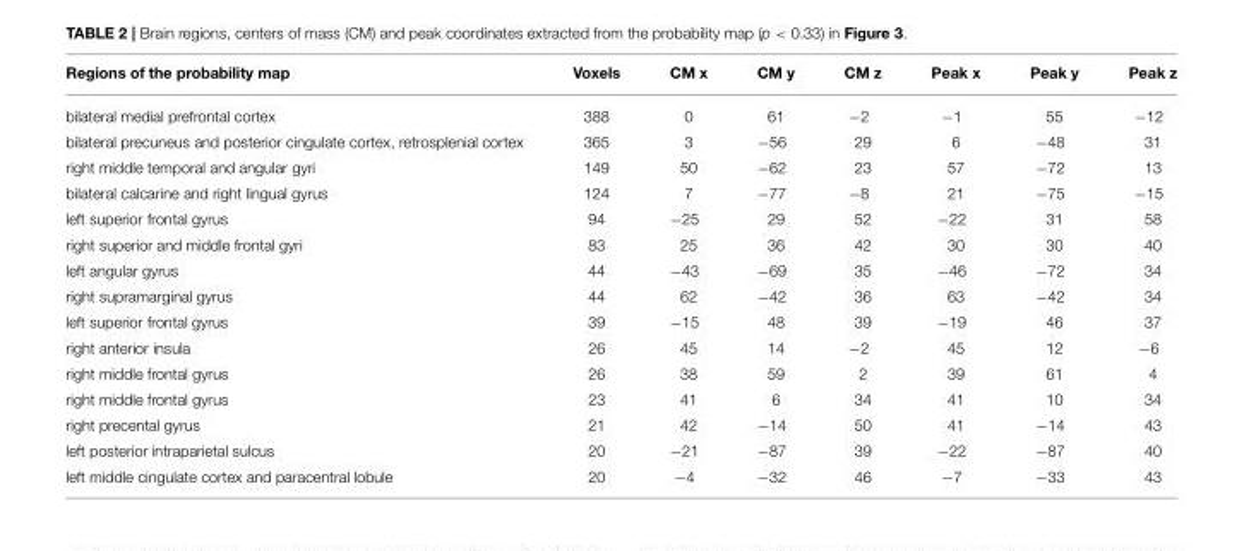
<table><thead><tr><td>Regions of the probability map</td><td>Voxels</td><td>CM x</td><td>CM y</td><td>CM z</td><td>Peak x</td><td>Peak y</td><td>Peak z</td></tr></thead><tbody><tr><td>bilateral medial prefrontal cortex</td><td>388</td><td>0</td><td>61</td><td>−2</td><td>−1</td><td>55</td><td>−12</td></tr><tr><td>bilateral precuneus and posterior cingulate cortex, retrosplenial cortex</td><td>365</td><td>3</td><td>−56</td><td>29</td><td>6</td><td>−48</td><td>31</td></tr><tr><td>right middle temporal and angular gyri</td><td>149</td><td>50</td><td>−62</td><td>23</td><td>57</td><td>−72</td><td>13</td></tr><tr><td>bilateral calcarine and right lingual gyrus</td><td>124</td><td>7</td><td>−77</td><td>−8</td><td>21</td><td>−75</td><td>−15</td></tr><tr><td>left superior frontal gyrus</td><td>94</td><td>−25</td><td>29</td><td>52</td><td>−22</td><td>31</td><td>58</td></tr><tr><td>right superior and middle frontal gyri</td><td>83</td><td>25</td><td>36</td><td>42</td><td>30</td><td>30</td><td>40</td></tr><tr><td>left angular gyrus</td><td>44</td><td>−43</td><td>−69</td><td>35</td><td>−46</td><td>−72</td><td>34</td></tr><tr><td>right supramarginal gyrus</td><td>44</td><td>62</td><td>−42</td><td>36</td><td>63</td><td>−42</td><td>34</td></tr><tr><td>left superior frontal gyrus</td><td>39</td><td>−15</td><td>48</td><td>39</td><td>−19</td><td>46</td><td>37</td></tr><tr><td>right anterior insula</td><td>26</td><td>45</td><td>14</td><td>−2</td><td>45</td><td>12</td><td>−6</td></tr><tr><td>right middle frontal gyrus</td><td>26</td><td>38</td><td>59</td><td>2</td><td>39</td><td>61</td><td>4</td></tr><tr><td>right middle frontal gyrus</td><td>23</td><td>41</td><td>6</td><td>34</td><td>41</td><td>10</td><td>34</td></tr><tr><td>right precental gyrus</td><td>21</td><td>42</td><td>−14</td><td>50</td><td>41</td><td>−14</td><td>43</td></tr><tr><td>left posterior intraparietal sulcus</td><td>20</td><td>−21</td><td>−87</td><td>39</td><td>−22</td><td>−87</td><td>40</td></tr><tr><td>left middle cingulate cortex and paracentral lobule</td><td>20</td><td>−4</td><td>−32</td><td>46</td><td>−7</td><td>−33</td><td>43</td></tr></tbody></table>